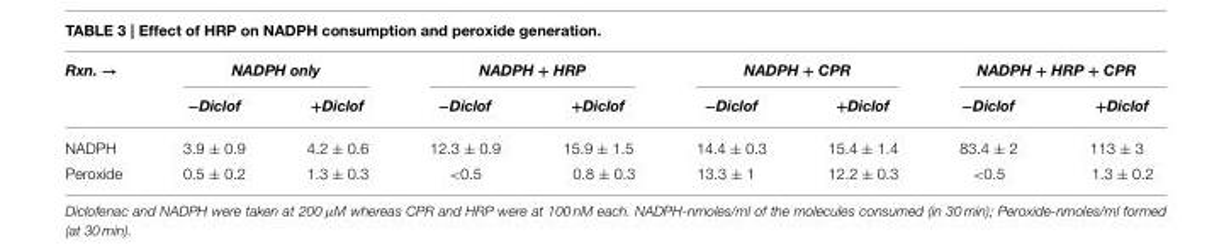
<table><thead><tr><td rowspan="2">Rxn. →</td><td colspan="2">NADPH only</td><td colspan="2">NADPH + HRP</td><td colspan="2">NADPH + CPR</td><td colspan="2">NADPH + HRP + CPR</td></tr><tr><td>−Diclof</td><td>+Diclof</td><td>−Diclof</td><td>+Diclof</td><td>−Diclof</td><td>+Diclof</td><td>−Diclof</td><td>+Diclof</td></tr></thead><tbody><tr><td>NADPH</td><td>3.9 ± 0.9</td><td>4.2 ± 0.6</td><td>12.3 ± 0.9</td><td>15.9 ± 1.5</td><td>14.4 ± 0.3</td><td>15.4 ± 1.4</td><td>83.4 ± 2</td><td>113 ± 3</td></tr><tr><td>Peroxide</td><td>0.5 ± 0.2</td><td>1.3 ± 0.3</td><td>&lt;0.5</td><td>0.8 ± 0.3</td><td>13.3 ± 1</td><td>12.2 ± 0.3</td><td>&lt;0.5</td><td>1.3 ± 0.2</td></tr></tbody></table>